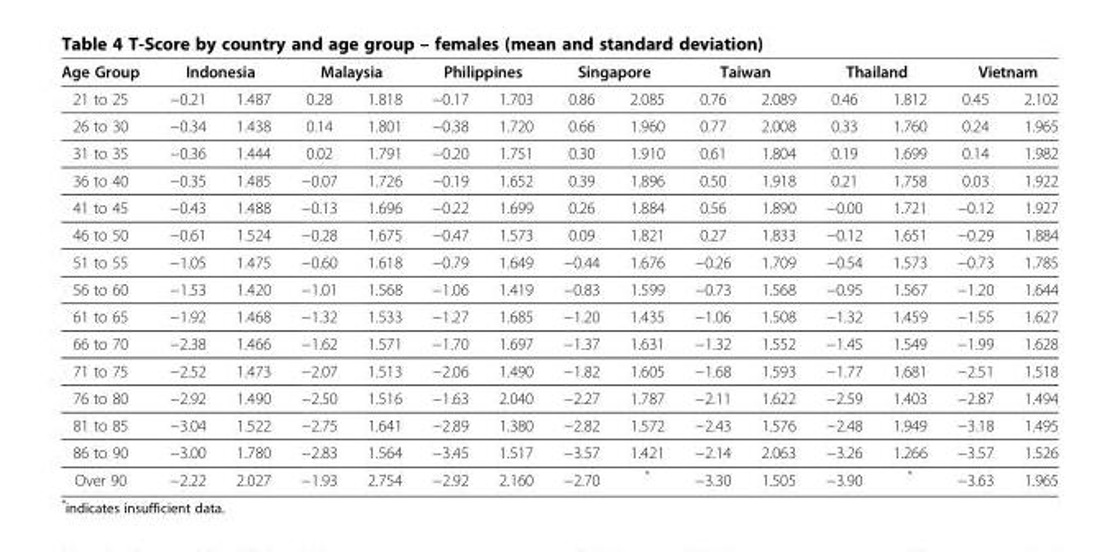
<table><thead><tr><td rowspan="2">Age Group 21 to 25</td><td colspan="2">Indonesia</td><td colspan="2">Malaysia</td><td colspan="2">Philippines</td><td colspan="2">Singapore</td><td colspan="2">Taiwan</td><td colspan="2">Thailand</td><td colspan="2">Vietnam</td></tr><tr><td>−0.21</td><td>1.487</td><td>0.28</td><td>1.818</td><td>−0.17</td><td>1.703</td><td>0.86</td><td>2.085</td><td>0.76</td><td>2.089</td><td>0.46</td><td>1.812</td><td>0.45</td><td>2.102</td></tr></thead><tbody><tr><td>26 to 30</td><td>−0.34</td><td>1.438</td><td>0.14</td><td>1.801</td><td>−0.38</td><td>1.720</td><td>0.66</td><td>1.960</td><td>0.77</td><td>2.008</td><td>0.33</td><td>1.760</td><td>0.24</td><td>1.965</td></tr><tr><td>31 to 35</td><td>−0.36</td><td>1.444</td><td>0.02</td><td>1.791</td><td>−0.20</td><td>1.751</td><td>0.30</td><td>1.910</td><td>0.61</td><td>1.804</td><td>0.19</td><td>1.699</td><td>0.14</td><td>1.982</td></tr><tr><td>36 to 40</td><td>−0.35</td><td>1.485</td><td>−0.07</td><td>1.726</td><td>−0.19</td><td>1.652</td><td>0.39</td><td>1.896</td><td>0.50</td><td>1.918</td><td>0.21</td><td>1.758</td><td>0.03</td><td>1.922</td></tr><tr><td>41 to 45</td><td>−0.43</td><td>1.488</td><td>−0.13</td><td>1.696</td><td>−0.22</td><td>1.699</td><td>0.26</td><td>1.884</td><td>0.56</td><td>1.890</td><td>−0.00</td><td>1.721</td><td>−0.12</td><td>1.927</td></tr><tr><td>46 to 50</td><td>−0.61</td><td>1.524</td><td>−0.28</td><td>1.675</td><td>−0.47</td><td>1.573</td><td>0.09</td><td>1.821</td><td>0.27</td><td>1.833</td><td>−0.12</td><td>1.651</td><td>−0.29</td><td>1.884</td></tr><tr><td>51 to 55</td><td>−1.05</td><td>1.475</td><td>−0.60</td><td>1.618</td><td>−0.79</td><td>1.649</td><td>−0.44</td><td>1.676</td><td>−0.26</td><td>1.709</td><td>−0.54</td><td>1.573</td><td>−0.73</td><td>1.785</td></tr><tr><td>56 to 60</td><td>−1.53</td><td>1.420</td><td>−1.01</td><td>1.568</td><td>−1.06</td><td>1.419</td><td>−0.83</td><td>1.599</td><td>−0.73</td><td>1.568</td><td>−0.95</td><td>1.567</td><td>−1.20</td><td>1.644</td></tr><tr><td>61 to 65</td><td>−1.92</td><td>1.468</td><td>−1.32</td><td>1.533</td><td>−1.27</td><td>1.685</td><td>−1.20</td><td>1.435</td><td>−1.06</td><td>1.508</td><td>−1.32</td><td>1.459</td><td>−1.55</td><td>1.627</td></tr><tr><td>66 to 70</td><td>−2.38</td><td>1.466</td><td>−1.62</td><td>1.571</td><td>−1.70</td><td>1.697</td><td>−1.37</td><td>1.631</td><td>−1.32</td><td>1.552</td><td>−1.45</td><td>1.549</td><td>−1.99</td><td>1.628</td></tr><tr><td>71 to 75</td><td>−2.52</td><td>1.473</td><td>−2.07</td><td>1.513</td><td>−2.06</td><td>1.490</td><td>−1.82</td><td>1.605</td><td>−1.68</td><td>1.593</td><td>−1.77</td><td>1.681</td><td>−2.51</td><td>1.518</td></tr><tr><td>76 to 80</td><td>−2.92</td><td>1.490</td><td>−2.50</td><td>1.516</td><td>−1.63</td><td>2.040</td><td>−2.27</td><td>1.787</td><td>−2.11</td><td>1.622</td><td>−2.59</td><td>1.403</td><td>−2.87</td><td>1.494</td></tr><tr><td>81 to 85</td><td>−3.04</td><td>1.522</td><td>−2.75</td><td>1.641</td><td>−2.89</td><td>1.380</td><td>−2.82</td><td>1.572</td><td>−2.43</td><td>1.576</td><td>−2.48</td><td>1.949</td><td>−3.18</td><td>1.495</td></tr><tr><td>86 to 90</td><td>−3.00</td><td>1.780</td><td>−2.83</td><td>1.564</td><td>−3.45</td><td>1.517</td><td>−3.57</td><td>1.421</td><td>−2.14</td><td>2.063</td><td>−3.26</td><td>1.266</td><td>−3.57</td><td>1.526</td></tr><tr><td>Over 90</td><td>−2.22</td><td>2.027</td><td>−1.93</td><td>2.754</td><td>−2.92</td><td>2.160</td><td>−2.70</td><td>*</td><td>−3.30</td><td>1.505</td><td>−3.90</td><td>*</td><td>−3.63</td><td>1.965</td></tr></tbody></table>